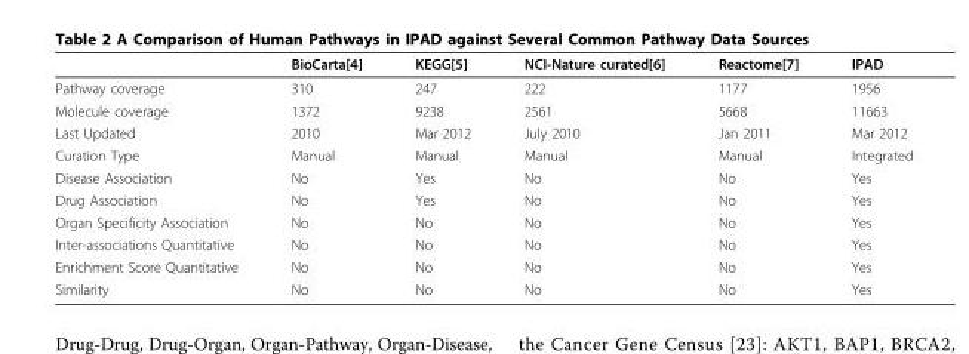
<table><thead><tr><td></td><td>BioCarta[4]</td><td>KEGG[5]</td><td>NCI-Nature curated[6]</td><td>Reactome[7]</td><td>IPAD</td></tr></thead><tbody><tr><td>Pathway coverage</td><td>310</td><td>247</td><td>222</td><td>1177</td><td>1956</td></tr><tr><td>Molecule coverage</td><td>1372</td><td>9238</td><td>2561</td><td>5668</td><td>11663</td></tr><tr><td>Last Updated</td><td>2010</td><td>Mar 2012</td><td>July 2010</td><td>Jan 2011</td><td>Mar 2012</td></tr><tr><td>Curation Type</td><td>Manual</td><td>Manual</td><td>Manual</td><td>Manual</td><td>Integrated</td></tr><tr><td>Disease Association</td><td>No</td><td>Yes</td><td>No</td><td>No</td><td>Yes</td></tr><tr><td>Drug Association</td><td>No</td><td>Yes</td><td>No</td><td>No</td><td>Yes</td></tr><tr><td>Organ Specificity Association</td><td>No</td><td>No</td><td>No</td><td>No</td><td>Yes</td></tr><tr><td>Inter-associations Quantitative</td><td>No</td><td>No</td><td>No</td><td>No</td><td>Yes</td></tr><tr><td>Enrichment Score Quantitative</td><td>No</td><td>No</td><td>No</td><td>No</td><td>Yes</td></tr><tr><td>Similarity</td><td>No</td><td>No</td><td>No</td><td>No</td><td>Yes</td></tr></tbody></table>